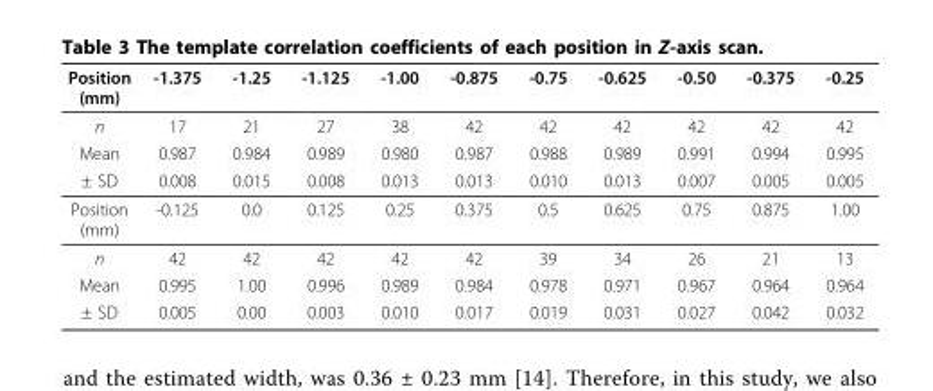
<table><thead><tr><td>Position (mm)</td><td>-1.375</td><td>-1.25</td><td>-1.125</td><td>-1.00</td><td>-0.875</td><td>-0.75</td><td>-0.625</td><td>-0.50</td><td>-0.375</td><td>-0.25</td></tr></thead><tbody><tr><td>n</td><td>17</td><td>21</td><td>27</td><td>38</td><td>42</td><td>42</td><td>42</td><td>42</td><td>42</td><td>42</td></tr><tr><td>Mean</td><td>0.987</td><td>0.984</td><td>0.989</td><td>0.980</td><td>0.987</td><td>0.988</td><td>0.989</td><td>0.991</td><td>0.994</td><td>0.995</td></tr><tr><td>± SD</td><td>0.008</td><td>0.015</td><td>0.008</td><td>0.013</td><td>0.013</td><td>0.010</td><td>0.013</td><td>0.007</td><td>0.005</td><td>0.005</td></tr><tr><td>Position (mm)</td><td>-0.125</td><td>0.0</td><td>0.125</td><td>0.25</td><td>0.375</td><td>0.5</td><td>0.625</td><td>0.75</td><td>0.875</td><td>1.00</td></tr><tr><td>n</td><td>42</td><td>42</td><td>42</td><td>42</td><td>42</td><td>39</td><td>34</td><td>26</td><td>21</td><td>13</td></tr><tr><td>Mean</td><td>0.995</td><td>1.00</td><td>0.996</td><td>0.989</td><td>0.984</td><td>0.978</td><td>0.971</td><td>0.967</td><td>0.964</td><td>0.964</td></tr><tr><td>± SD</td><td>0.005</td><td>0.00</td><td>0.003</td><td>0.010</td><td>0.017</td><td>0.019</td><td>0.031</td><td>0.027</td><td>0.042</td><td>0.032</td></tr></tbody></table>